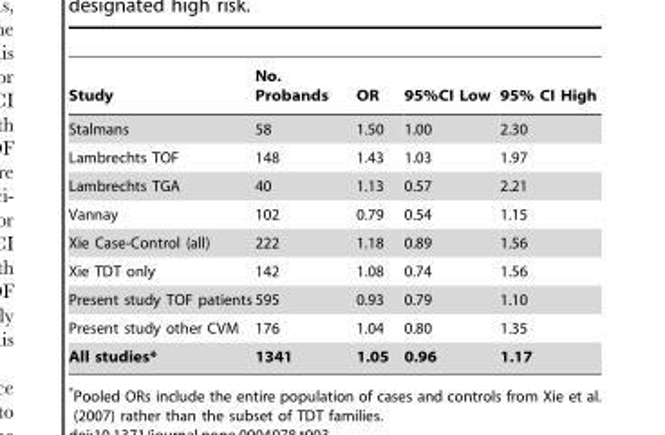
<table><thead><tr><td>Study</td><td>No. Probands</td><td>OR</td><td>95%CI Low</td><td>95% CI High</td></tr></thead><tbody><tr><td>Stalmans</td><td>58</td><td>1.50</td><td>1.00</td><td>2.30</td></tr><tr><td>Lambrechts TOF</td><td>148</td><td>1.43</td><td>1.03</td><td>1.97</td></tr><tr><td>Lambrechts TGA</td><td>40</td><td>1.13</td><td>0.57</td><td>2.21</td></tr><tr><td>Vannay</td><td>102</td><td>0.79</td><td>0.54</td><td>1.15</td></tr><tr><td>Xie Case-Control (all)</td><td>222</td><td>1.18</td><td>0.89</td><td>1.56</td></tr><tr><td>Xie TDT only</td><td>142</td><td>1.08</td><td>0.74</td><td>1.56</td></tr><tr><td>Present study TOF patients</td><td>595</td><td>0.93</td><td>0.79</td><td>1.10</td></tr><tr><td>Present study other CVM</td><td>176</td><td>1.04</td><td>0.80</td><td>1.35</td></tr><tr><td>All studies*</td><td>1341</td><td>1.05</td><td>0.96</td><td>1.17</td></tr></tbody></table>